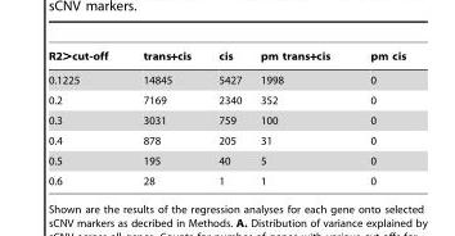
<table><thead><tr><td>R2&gt;cut-off</td><td>trans+cis</td><td>cis</td><td>pm trans+cis</td><td>pm cis</td></tr></thead><tbody><tr><td>0.1225</td><td>14845</td><td>5427</td><td>1998</td><td>0</td></tr><tr><td>0.2</td><td>7169</td><td>2340</td><td>352</td><td>0</td></tr><tr><td>0.3</td><td>3031</td><td>759</td><td>100</td><td>0</td></tr><tr><td>0.4</td><td>878</td><td>205</td><td>31</td><td>0</td></tr><tr><td>0.5</td><td>195</td><td>40</td><td>5</td><td>0</td></tr><tr><td>0.6</td><td>28</td><td>1</td><td>1</td><td>0</td></tr></tbody></table>